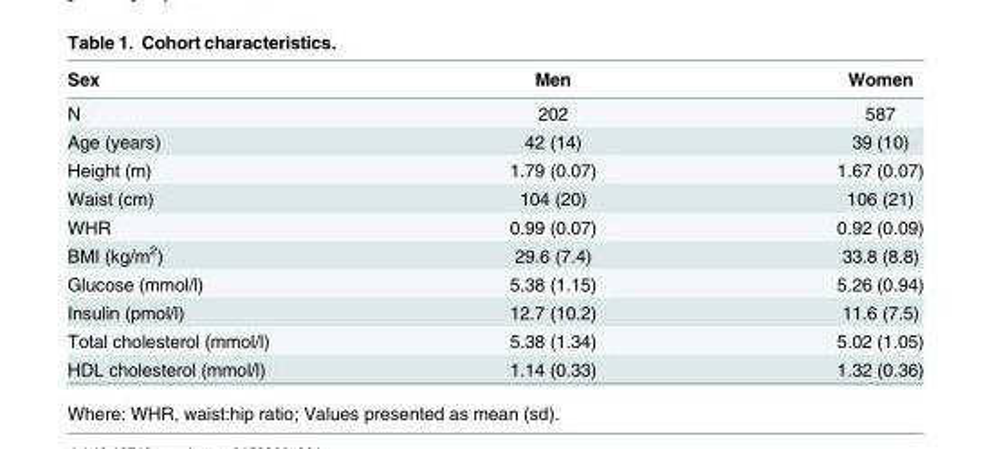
<table><thead><tr><td>Sex</td><td>Men</td><td>Women</td></tr></thead><tbody><tr><td>N</td><td>202</td><td>587</td></tr><tr><td>Age (years)</td><td>42 (14)</td><td>39 (10)</td></tr><tr><td>Height (m)</td><td>1.79 (0.07)</td><td>1.67 (0.07)</td></tr><tr><td>Waist (cm)</td><td>104 (20)</td><td>106 (21)</td></tr><tr><td>WHR</td><td>0.99 (0.07)</td><td>0.92 (0.09)</td></tr><tr><td>BMI (kg/m<sup>2</sup>)</td><td>29.6 (7.4)</td><td>33.8 (8.8)</td></tr><tr><td>Glucose (mmol/l)</td><td>5.38 (1.15)</td><td>5.26 (0.94)</td></tr><tr><td>Insulin (pmol/l)</td><td>12.7 (10.2)</td><td>11.6 (7.5)</td></tr><tr><td>Total cholesterol (mmol/l)</td><td>5.38 (1.34)</td><td>5.02 (1.05)</td></tr><tr><td>HDL cholesterol (mmol/l)</td><td>1.14 (0.33)</td><td>1.32 (0.36)</td></tr></tbody></table>